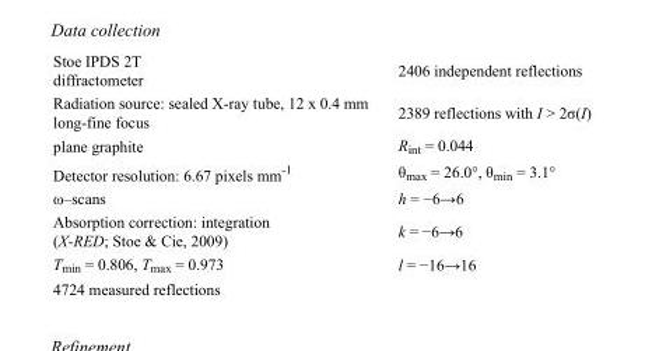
<table><tbody><tr><td>Stoe IPDS 2T diffractometer</td><td>2406 independent reflections</td></tr><tr><td>Radiation source: sealed X-ray tube, 12 x 0.4 mm long-fine focus</td><td>2389 reflections with I &gt; 2σ(I)</td></tr><tr><td>plane graphite</td><td>R<sub>int</sub> = 0.044</td></tr><tr><td>Detector resolution: 6.67 pixels mm<sup>-1</sup></td><td>θ<sub>max</sub> = 26.0°, θ<sub>min</sub> = 3.1°</td></tr><tr><td>ω–scans</td><td>h = −6→6</td></tr><tr><td>Absorption correction: integration (X-RED; Stoe &amp; Cie, 2009)</td><td>k = −6→6</td></tr><tr><td>T<sub>min</sub> = 0.806, T<sub>max</sub> = 0.973</td><td>l = −16→16</td></tr><tr><td>4724 measured reflections</td><td></td></tr></tbody></table>